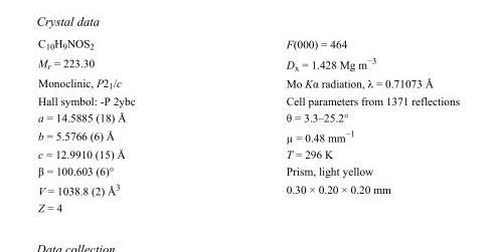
<table><tbody><tr><td>C<sub>10</sub>H<sub>9</sub>NOS<sub>2</sub></td><td>F(000) = 464</td></tr><tr><td>M<sub>r</sub> = 223.30</td><td>D<sub>x</sub> = 1.428 Mg m<sup>−3</sup></td></tr><tr><td>Monoclinic, P2<sub>1</sub>/c</td><td>Mo Kα radiation, λ = 0.71073 Å</td></tr><tr><td>Hall symbol: -P 2ybc</td><td>Cell parameters from 1371 reflections</td></tr><tr><td>a = 14.5885 (18) Å</td><td>θ = 3.3–25.2°</td></tr><tr><td>b = 5.5766 (6) Å</td><td>µ = 0.48 mm<sup>−1</sup></td></tr><tr><td>c = 12.9910 (15) Å</td><td>T = 296 K</td></tr><tr><td>β = 100.603 (6)°</td><td>Prism, light yellow</td></tr><tr><td>V = 1038.8 (2) Å<sup>3</sup></td><td>0.30 × 0.20 × 0.20 mm</td></tr><tr><td>Z = 4</td><td></td></tr></tbody></table>